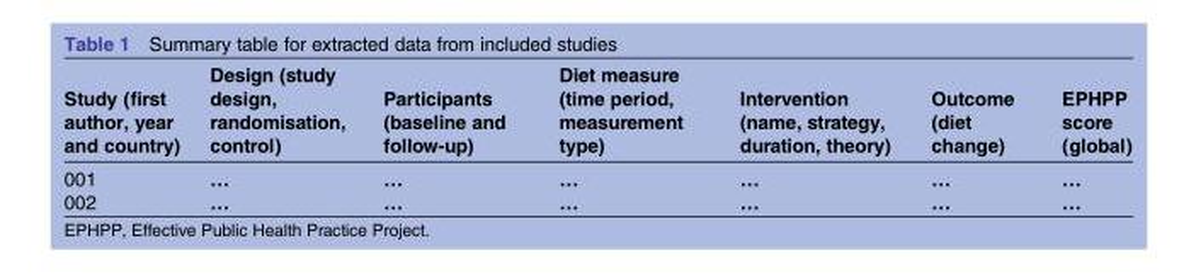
<table><thead><tr><td>Study (first author, year and country)</td><td>Design (study design, randomisation, control)</td><td>Participants (baseline and follow-up)</td><td>Diet measure (time period, measurement type)</td><td>Intervention (name, strategy, duration, theory)</td><td>Outcome (diet change)</td><td>EPHPP score (global)</td></tr></thead><tbody><tr><td>001</td><td>…</td><td>…</td><td>…</td><td>…</td><td>…</td><td>…</td></tr><tr><td>002</td><td>…</td><td>…</td><td>…</td><td>…</td><td>…</td><td>…</td></tr></tbody></table>